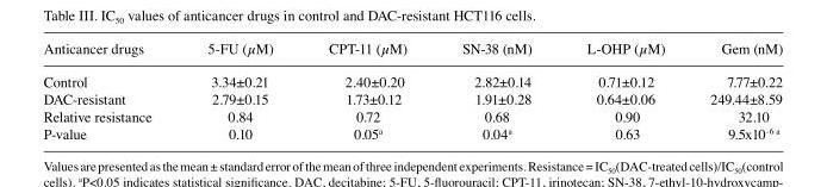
<table><thead><tr><td>Anticancer drugs</td><td>5‑FU (µM)</td><td>CPT‑11 (µM)</td><td>SN‑38 (nM)</td><td>L‑OHP (µM)</td><td>Gem (nM)</td></tr></thead><tbody><tr><td>Control</td><td>3.34±0.21</td><td>2.40±0.20</td><td>2.82±0.14</td><td>0.71±0.12</td><td>7.77±0.22</td></tr><tr><td>DAC‑resistant</td><td>2.79±0.15</td><td>1.73±0.12</td><td>1.91±0.28</td><td>0.64±0.06</td><td>249.44±8.59</td></tr><tr><td>Relative resistance</td><td>0.84</td><td>0.72</td><td>0.68</td><td>0.90</td><td>32.10</td></tr><tr><td>P‑value</td><td>0.10</td><td>0.05<sup>a</sup></td><td>0.04<sup>a</sup></td><td>0.63</td><td>9.5x10-6 a</td></tr></tbody></table>